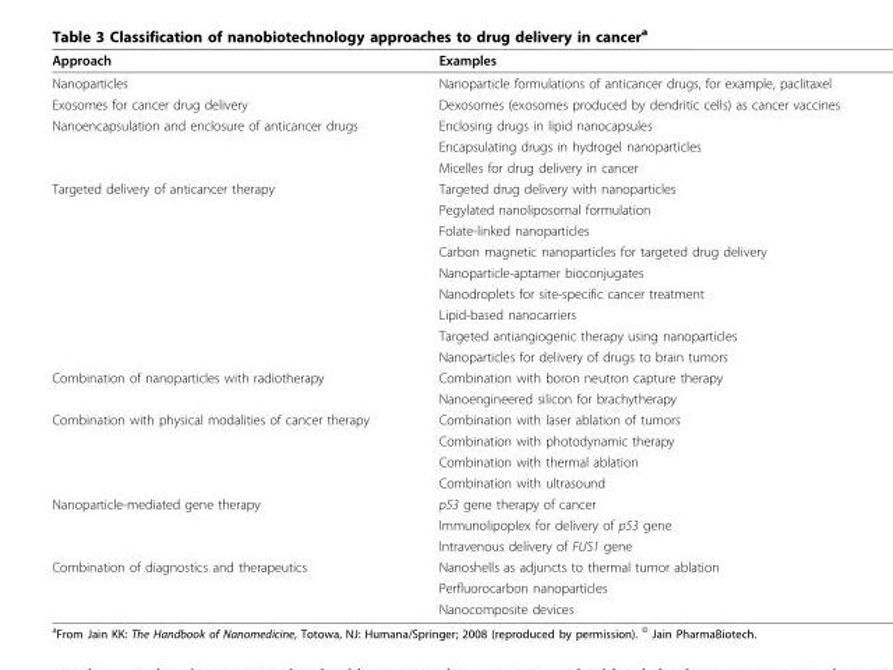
<table><thead><tr><td>Approach</td><td>Examples</td></tr></thead><tbody><tr><td>Nanoparticles</td><td>Nanoparticle formulations of anticancer drugs, for example, paclitaxel</td></tr><tr><td>Exosomes for cancer drug delivery</td><td>Dexosomes (exosomes produced by dendritic cells) as cancer vaccines</td></tr><tr><td rowspan="3">Nanoencapsulation and enclosure of anticancer drugs</td><td>Enclosing drugs in lipid nanocapsules</td></tr><tr><td>Encapsulating drugs in hydrogel nanoparticles</td></tr><tr><td>Micelles for drug delivery in cancer</td></tr><tr><td rowspan="9">Targeted delivery of anticancer therapy</td><td>Targeted drug delivery with nanoparticles</td></tr><tr><td>Pegylated nanoliposomal formulation</td></tr><tr><td>Folate-linked nanoparticles</td></tr><tr><td>Carbon magnetic nanoparticles for targeted drug delivery</td></tr><tr><td>Nanoparticle-aptamer bioconjugates</td></tr><tr><td>Nanodroplets for site-specific cancer treatment</td></tr><tr><td>Lipid-based nanocarriers</td></tr><tr><td>Targeted antiangiogenic therapy using nanoparticles</td></tr><tr><td>Nanoparticles for delivery of drugs to brain tumors</td></tr><tr><td rowspan="2">Combination of nanoparticles with radiotherapy</td><td>Combination with boron neutron capture therapy</td></tr><tr><td>Nanoengineered silicon for brachytherapy</td></tr><tr><td rowspan="4">Combination with physical modalities of cancer therapy</td><td>Combination with laser ablation of tumors</td></tr><tr><td>Combination with photodynamic therapy</td></tr><tr><td>Combination with thermal ablation</td></tr><tr><td>Combination with ultrasound</td></tr><tr><td rowspan="3">Nanoparticle-mediated gene therapy</td><td>p53 gene therapy of cancer</td></tr><tr><td>Immunolipoplex for delivery of p53 gene</td></tr><tr><td>Intravenous delivery of FUS1 gene</td></tr><tr><td rowspan="3">Combination of diagnostics and therapeutics</td><td>Nanoshells as adjuncts to thermal tumor ablation</td></tr><tr><td>Perfluorocarbon nanoparticles</td></tr><tr><td>Nanocomposite devices</td></tr></tbody></table>